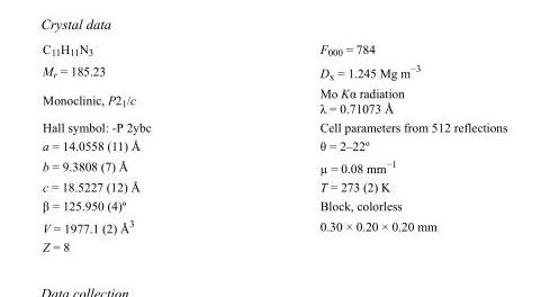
<table><tbody><tr><td>C<sub>11</sub>H<sub>11</sub>N<sub>3</sub></td><td>F<sub>000</sub> = 784</td></tr><tr><td>M<sub>r</sub> = 185.23</td><td>D<sub>x</sub> = 1.245 Mg m<sup>−3</sup></td></tr><tr><td>Monoclinic, P2<sub>1</sub>/c</td><td>Mo Kα radiation λ = 0.71073 Å</td></tr><tr><td>Hall symbol: -P 2ybc</td><td>Cell parameters from 512 reflections</td></tr><tr><td>a = 14.0558 (11) Å</td><td>θ = 2–22º</td></tr><tr><td>b = 9.3808 (7) Å</td><td>µ = 0.08 mm<sup>−1</sup></td></tr><tr><td>c = 18.5227 (12) Å</td><td>T = 273 (2) K</td></tr><tr><td>β = 125.950 (4)º</td><td>Block, colorless</td></tr><tr><td>V = 1977.1 (2) Å<sup>3</sup></td><td>0.30 × 0.20 × 0.20 mm</td></tr><tr><td>Z = 8</td><td></td></tr></tbody></table>